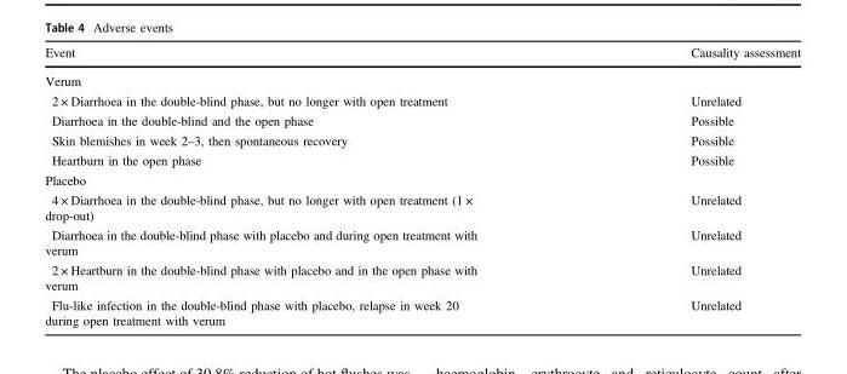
<table><thead><tr><td>Event</td><td>Causality assessment</td></tr></thead><tbody><tr><td colspan="2">Verum</td></tr><tr><td>2 × Diarrhoea in the double-blind phase, but no longer with open treatment</td><td>Unrelated</td></tr><tr><td>Diarrhoea in the double-blind and the open phase</td><td>Possible</td></tr><tr><td>Skin blemishes in week 2–3, then spontaneous recovery</td><td>Possible</td></tr><tr><td>Heartburn in the open phase</td><td>Possible</td></tr><tr><td colspan="2">Placebo</td></tr><tr><td>4 × Diarrhoea in the double-blind phase, but no longer with open treatment (1 × drop-out)</td><td>Unrelated</td></tr><tr><td>Diarrhoea in the double-blind phase with placebo and during open treatment with verum</td><td>Unrelated</td></tr><tr><td>2 × Heartburn in the double-blind phase with placebo and in the open phase with verum</td><td>Unrelated</td></tr><tr><td>Flu-like infection in the double-blind phase with placebo, relapse in week 20 during open treatment with verum</td><td>Unrelated</td></tr></tbody></table>